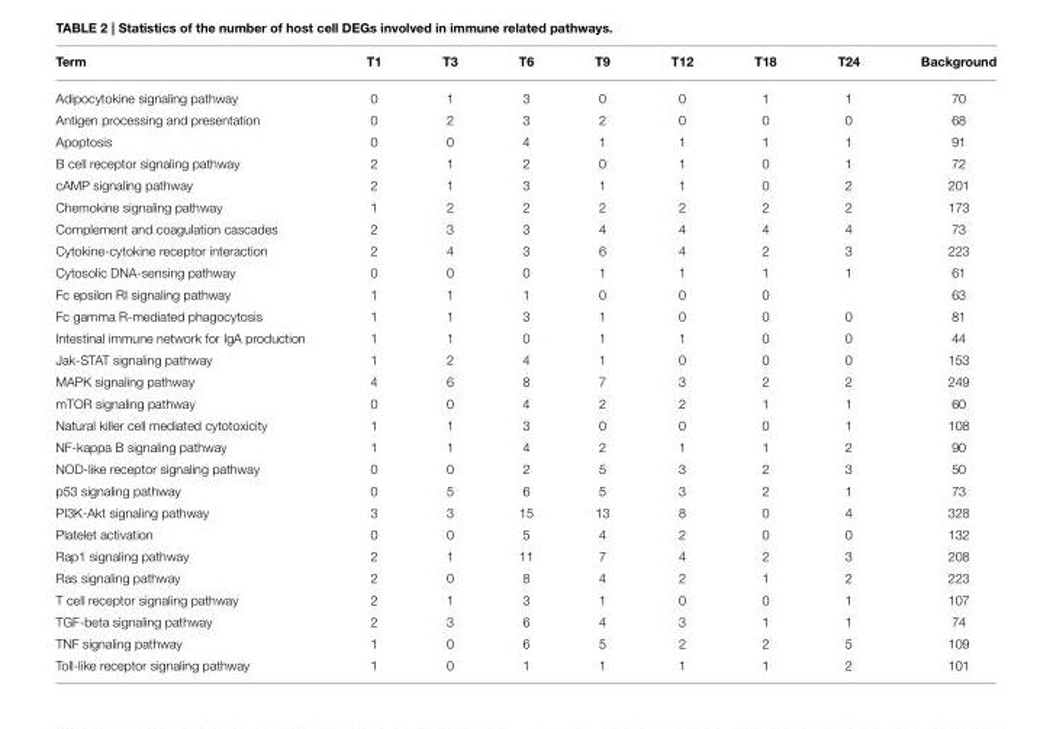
<table><thead><tr><td>Term</td><td>T1</td><td>T3</td><td>T6</td><td>T9</td><td>T12</td><td>T18</td><td>T24</td><td>Background</td></tr></thead><tbody><tr><td>Adipocytokine signaling pathway</td><td>0</td><td>1</td><td>3</td><td>0</td><td>0</td><td>1</td><td>1</td><td>70</td></tr><tr><td>Antigen processing and presentation</td><td>0</td><td>2</td><td>3</td><td>2</td><td>0</td><td>0</td><td>0</td><td>68</td></tr><tr><td>Apoptosis</td><td>0</td><td>0</td><td>4</td><td>1</td><td>1</td><td>1</td><td>1</td><td>91</td></tr><tr><td>B cell receptor signaling pathway</td><td>2</td><td>1</td><td>2</td><td>0</td><td>1</td><td>0</td><td>1</td><td>72</td></tr><tr><td>cAMP signaling pathway</td><td>2</td><td>1</td><td>3</td><td>1</td><td>1</td><td>0</td><td>2</td><td>201</td></tr><tr><td>Chemokine signaling pathway</td><td>1</td><td>2</td><td>2</td><td>2</td><td>2</td><td>2</td><td>2</td><td>173</td></tr><tr><td>Complement and coagulation cascades</td><td>2</td><td>3</td><td>3</td><td>4</td><td>4</td><td>4</td><td>4</td><td>73</td></tr><tr><td>Cytokine-cytokine receptor interaction</td><td>2</td><td>4</td><td>3</td><td>6</td><td>4</td><td>2</td><td>3</td><td>223</td></tr><tr><td>Cytosolic DNA-sensing pathway</td><td>0</td><td>0</td><td>0</td><td>1</td><td>1</td><td>1</td><td>1</td><td>61</td></tr><tr><td>Fc epsilon RI signaling pathway</td><td>1</td><td>1</td><td>1</td><td>0</td><td>0</td><td>0</td><td></td><td>63</td></tr><tr><td>Fc gamma R-mediated phagocytosis</td><td>1</td><td>1</td><td>3</td><td>1</td><td>0</td><td>0</td><td>0</td><td>81</td></tr><tr><td>Intestinal immune network for IgA production</td><td>1</td><td>1</td><td>0</td><td>1</td><td>1</td><td>0</td><td>0</td><td>44</td></tr><tr><td>Jak-STAT signaling pathway</td><td>1</td><td>2</td><td>4</td><td>1</td><td>0</td><td>0</td><td>0</td><td>153</td></tr><tr><td>MAPK signaling pathway</td><td>4</td><td>6</td><td>8</td><td>7</td><td>3</td><td>2</td><td>2</td><td>249</td></tr><tr><td>mTOR signaling pathway</td><td>0</td><td>0</td><td>4</td><td>2</td><td>2</td><td>1</td><td>1</td><td>60</td></tr><tr><td>Natural killer cell mediated cytotoxicity</td><td>1</td><td>1</td><td>3</td><td>0</td><td>0</td><td>0</td><td>1</td><td>108</td></tr><tr><td>NF-kappa B signaling pathway</td><td>1</td><td>1</td><td>4</td><td>2</td><td>1</td><td>1</td><td>2</td><td>90</td></tr><tr><td>NOD-like receptor signaling pathway</td><td>0</td><td>0</td><td>2</td><td>5</td><td>3</td><td>2</td><td>3</td><td>50</td></tr><tr><td>p53 signaling pathway</td><td>0</td><td>5</td><td>6</td><td>5</td><td>3</td><td>2</td><td>1</td><td>73</td></tr><tr><td>PI3K-Akt signaling pathway</td><td>3</td><td>3</td><td>15</td><td>13</td><td>8</td><td>0</td><td>4</td><td>328</td></tr><tr><td>Platelet activation</td><td>0</td><td>0</td><td>5</td><td>4</td><td>2</td><td>0</td><td>0</td><td>132</td></tr><tr><td>Rap1 signaling pathway</td><td>2</td><td>1</td><td>11</td><td>7</td><td>4</td><td>2</td><td>3</td><td>208</td></tr><tr><td>Ras signaling pathway</td><td>2</td><td>0</td><td>8</td><td>4</td><td>2</td><td>1</td><td>2</td><td>223</td></tr><tr><td>T cell receptor signaling pathway</td><td>2</td><td>1</td><td>3</td><td>1</td><td>0</td><td>0</td><td>1</td><td>107</td></tr><tr><td>TGF-beta signaling pathway</td><td>2</td><td>3</td><td>6</td><td>4</td><td>3</td><td>1</td><td>1</td><td>74</td></tr><tr><td>TNF signaling pathway</td><td>1</td><td>0</td><td>6</td><td>5</td><td>2</td><td>2</td><td>5</td><td>109</td></tr><tr><td>Toll-like receptor signaling pathway</td><td>1</td><td>0</td><td>1</td><td>1</td><td>1</td><td>1</td><td>2</td><td>101</td></tr></tbody></table>